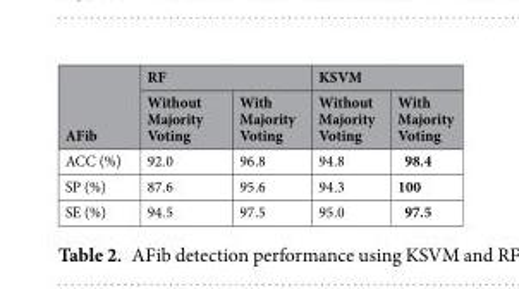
<table><thead><tr><td rowspan="2">AFib</td><td colspan="2">RF</td><td colspan="2">KSVM</td></tr><tr><td>Without Majority Voting</td><td>With Majority Voting</td><td>Without Majority Voting</td><td>With Majority Voting</td></tr></thead><tbody><tr><td>ACC (%)</td><td>92.0</td><td>96.8</td><td>94.8</td><td>98.4</td></tr><tr><td>SP (%)</td><td>87.6</td><td>95.6</td><td>94.3</td><td>100</td></tr><tr><td>SE (%)</td><td>94.5</td><td>97.5</td><td>95.0</td><td>97.5</td></tr></tbody></table>